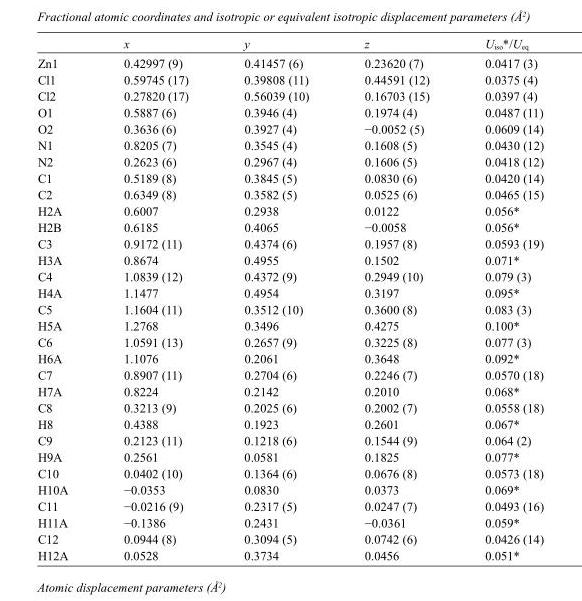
<table><thead><tr><td></td><td>x</td><td>y</td><td>z</td><td>U<sub>iso</sub>*/U<sub>eq</sub></td></tr></thead><tbody><tr><td>Zn1</td><td>0.42997 (9)</td><td>0.41457 (6)</td><td>0.23620 (7)</td><td>0.0417 (3)</td></tr><tr><td>Cl1</td><td>0.59745 (17)</td><td>0.39808 (11)</td><td>0.44591 (12)</td><td>0.0375 (4)</td></tr><tr><td>Cl2</td><td>0.27820 (17)</td><td>0.56039 (10)</td><td>0.16703 (15)</td><td>0.0397 (4)</td></tr><tr><td>O1</td><td>0.5887 (6)</td><td>0.3946 (4)</td><td>0.1974 (4)</td><td>0.0487 (11)</td></tr><tr><td>O2</td><td>0.3636 (6)</td><td>0.3927 (4)</td><td>−0.0052 (5)</td><td>0.0609 (14)</td></tr><tr><td>N1</td><td>0.8205 (7)</td><td>0.3545 (4)</td><td>0.1608 (5)</td><td>0.0430 (12)</td></tr><tr><td>N2</td><td>0.2623 (6)</td><td>0.2967 (4)</td><td>0.1606 (5)</td><td>0.0418 (12)</td></tr><tr><td>C1</td><td>0.5189 (8)</td><td>0.3845 (5)</td><td>0.0830 (6)</td><td>0.0420 (14)</td></tr><tr><td>C2</td><td>0.6349 (8)</td><td>0.3582 (5)</td><td>0.0525 (6)</td><td>0.0465 (15)</td></tr><tr><td>H2A</td><td>0.6007</td><td>0.2938</td><td>0.0122</td><td>0.056*</td></tr><tr><td>H2B</td><td>0.6185</td><td>0.4065</td><td>−0.0058</td><td>0.056*</td></tr><tr><td>C3</td><td>0.9172 (11)</td><td>0.4374 (6)</td><td>0.1957 (8)</td><td>0.0593 (19)</td></tr><tr><td>H3A</td><td>0.8674</td><td>0.4955</td><td>0.1502</td><td>0.071*</td></tr><tr><td>C4</td><td>1.0839 (12)</td><td>0.4372 (9)</td><td>0.2949 (10)</td><td>0.079 (3)</td></tr><tr><td>H4A</td><td>1.1477</td><td>0.4954</td><td>0.3197</td><td>0.095*</td></tr><tr><td>C5</td><td>1.1604 (11)</td><td>0.3512 (10)</td><td>0.3600 (8)</td><td>0.083 (3)</td></tr><tr><td>H5A</td><td>1.2768</td><td>0.3496</td><td>0.4275</td><td>0.100*</td></tr><tr><td>C6</td><td>1.0591 (13)</td><td>0.2657 (9)</td><td>0.3225 (8)</td><td>0.077 (3)</td></tr><tr><td>H6A</td><td>1.1076</td><td>0.2061</td><td>0.3648</td><td>0.092*</td></tr><tr><td>C7</td><td>0.8907 (11)</td><td>0.2704 (6)</td><td>0.2246 (7)</td><td>0.0570 (18)</td></tr><tr><td>H7A</td><td>0.8224</td><td>0.2142</td><td>0.2010</td><td>0.068*</td></tr><tr><td>C8</td><td>0.3213 (9)</td><td>0.2025 (6)</td><td>0.2002 (7)</td><td>0.0558 (18)</td></tr><tr><td>H8</td><td>0.4388</td><td>0.1923</td><td>0.2601</td><td>0.067*</td></tr><tr><td>C9</td><td>0.2123 (11)</td><td>0.1218 (6)</td><td>0.1544 (9)</td><td>0.064 (2)</td></tr><tr><td>H9A</td><td>0.2561</td><td>0.0581</td><td>0.1825</td><td>0.077*</td></tr><tr><td>C10</td><td>0.0402 (10)</td><td>0.1364 (6)</td><td>0.0676 (8)</td><td>0.0573 (18)</td></tr><tr><td>H10A</td><td>−0.0353</td><td>0.0830</td><td>0.0373</td><td>0.069*</td></tr><tr><td>C11</td><td>−0.0216 (9)</td><td>0.2317 (5)</td><td>0.0247 (7)</td><td>0.0493 (16)</td></tr><tr><td>H11A</td><td>−0.1386</td><td>0.2431</td><td>−0.0361</td><td>0.059*</td></tr><tr><td>C12</td><td>0.0944 (8)</td><td>0.3094 (5)</td><td>0.0742 (6)</td><td>0.0426 (14)</td></tr><tr><td>H12A</td><td>0.0528</td><td>0.3734</td><td>0.0456</td><td>0.051*</td></tr></tbody></table>